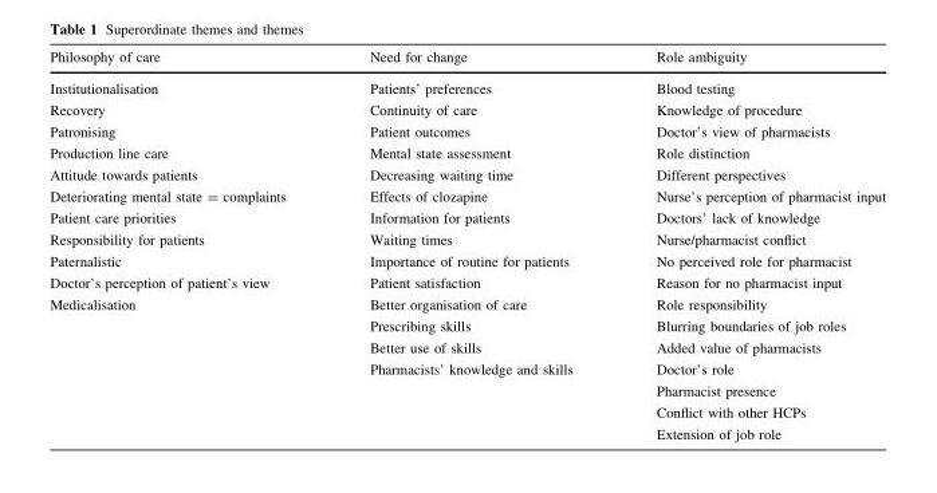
<table><thead><tr><td>Philosophy of care</td><td>Need for change</td><td>Role ambiguity</td></tr></thead><tbody><tr><td>Institutionalisation</td><td>Patients’ preferences</td><td>Blood testing</td></tr><tr><td>Recovery</td><td>Continuity of care</td><td>Knowledge of procedure</td></tr><tr><td>Patronising</td><td>Patient outcomes</td><td>Doctor’s view of pharmacists</td></tr><tr><td>Production line care</td><td>Mental state assessment</td><td>Role distinction</td></tr><tr><td>Attitude towards patients</td><td>Decreasing waiting time</td><td>Different perspectives</td></tr><tr><td>Deteriorating mental state = complaints</td><td>Effects of clozapine</td><td>Nurse’s perception of pharmacist input</td></tr><tr><td>Patient care priorities</td><td>Information for patients</td><td>Doctors’ lack of knowledge</td></tr><tr><td>Responsibility for patients</td><td>Waiting times</td><td>Nurse/pharmacist conflict</td></tr><tr><td>Paternalistic</td><td>Importance of routine for patients</td><td>No perceived role for pharmacist</td></tr><tr><td>Doctor’s perception of patient’s view</td><td>Patient satisfaction</td><td>Reason for no pharmacist input</td></tr><tr><td rowspan="7">Medicalisation</td><td>Better organisation of care</td><td>Role responsibility</td></tr><tr><td>Prescribing skills</td><td>Blurring boundaries of job roles</td></tr><tr><td>Better use of skills</td><td>Added value of pharmacists</td></tr><tr><td>Pharmacists’ knowledge and skills</td><td>Doctor’s role</td></tr><tr><td></td><td>Pharmacist presence</td></tr><tr><td></td><td>Conflict with other HCPs</td></tr><tr><td></td><td>Extension of job role</td></tr></tbody></table>